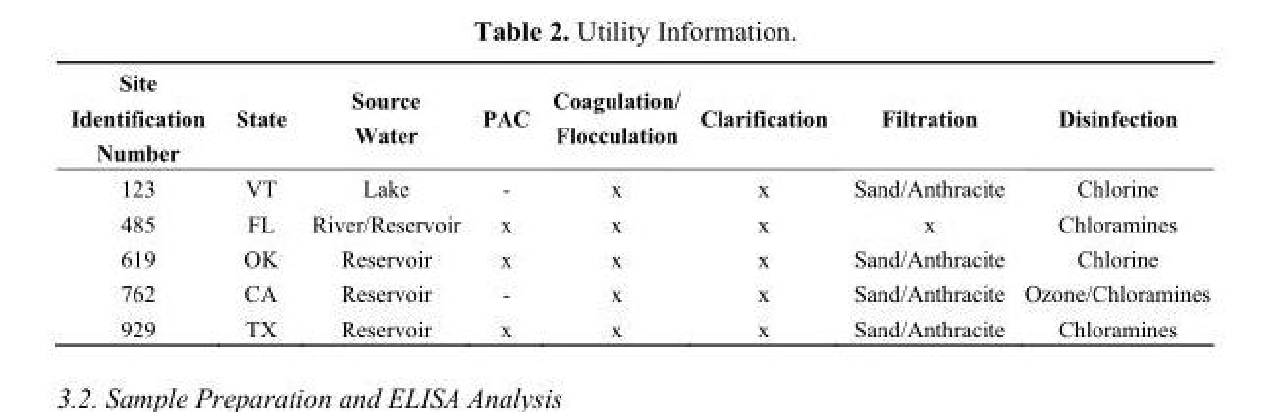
<table><thead><tr><td>Site Identification Number</td><td>State</td><td>Source Water</td><td>PAC</td><td>Coagulation/ Flocculation</td><td>Clarification</td><td>Filtration</td><td>Disinfection</td></tr></thead><tbody><tr><td>123</td><td>VT</td><td>Lake</td><td>-</td><td>x</td><td>x</td><td>Sand/Anthracite</td><td>Chlorine</td></tr><tr><td>485</td><td>FL</td><td>River/Reservoir</td><td>x</td><td>x</td><td>x</td><td>x</td><td>Chloramines</td></tr><tr><td>619</td><td>OK</td><td>Reservoir</td><td>x</td><td>x</td><td>x</td><td>Sand/Anthracite</td><td>Chlorine</td></tr><tr><td>762</td><td>CA</td><td>Reservoir</td><td>-</td><td>x</td><td>x</td><td>Sand/Anthracite</td><td>Ozone/Chloramines</td></tr><tr><td>929</td><td>TX</td><td>Reservoir</td><td>x</td><td>x</td><td>x</td><td>Sand/Anthracite</td><td>Chloramines</td></tr></tbody></table>